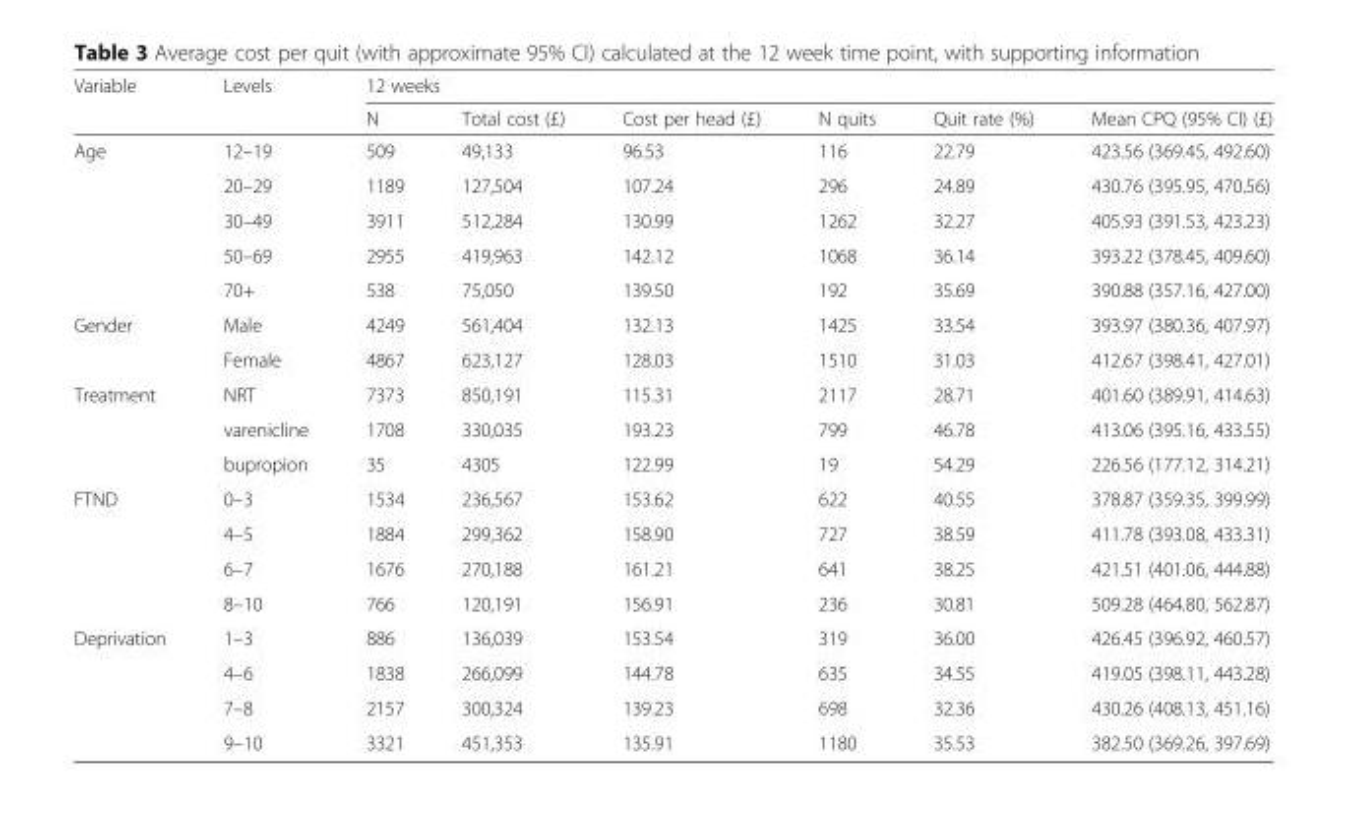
<table><thead><tr><td rowspan="2">Variable</td><td rowspan="2">Levels</td><td colspan="6">12 weeks</td></tr><tr><td>N</td><td>Total cost (£)</td><td>Cost per head (£)</td><td>N quits</td><td>Quit rate (%)</td><td>Mean CPQ (95% CI) (£)</td></tr></thead><tbody><tr><td rowspan="5">Age</td><td>12–19</td><td>509</td><td>49,133</td><td>96.53</td><td>116</td><td>22.79</td><td>423.56 (369.45, 492.60)</td></tr><tr><td>20–29</td><td>1189</td><td>127,504</td><td>107.24</td><td>296</td><td>24.89</td><td>430.76 (395.95, 470.56)</td></tr><tr><td>30–49</td><td>3911</td><td>512,284</td><td>130.99</td><td>1262</td><td>32.27</td><td>405.93 (391.53, 423.23)</td></tr><tr><td>50–69</td><td>2955</td><td>419,963</td><td>142.12</td><td>1068</td><td>36.14</td><td>393.22 (378.45, 409.60)</td></tr><tr><td>70+</td><td>538</td><td>75,050</td><td>139.50</td><td>192</td><td>35.69</td><td>390.88 (357.16, 427.00)</td></tr><tr><td rowspan="2">Gender</td><td>Male</td><td>4249</td><td>561,404</td><td>132.13</td><td>1425</td><td>33.54</td><td>393.97 (380.36, 407.97)</td></tr><tr><td>Female</td><td>4867</td><td>623,127</td><td>128.03</td><td>1510</td><td>31.03</td><td>412.67 (398.41, 427.01)</td></tr><tr><td rowspan="3">Treatment</td><td>NRT</td><td>7373</td><td>850,191</td><td>115.31</td><td>2117</td><td>28.71</td><td>401.60 (389.91, 414.63)</td></tr><tr><td>varenicline</td><td>1708</td><td>330,035</td><td>193.23</td><td>799</td><td>46.78</td><td>413.06 (395.16, 433.55)</td></tr><tr><td>bupropion</td><td>35</td><td>4305</td><td>122.99</td><td>19</td><td>54.29</td><td>226.56 (177.12, 314.21)</td></tr><tr><td rowspan="4">FTND</td><td>0–3</td><td>1534</td><td>236,567</td><td>153.62</td><td>622</td><td>40.55</td><td>378.87 (359.35, 399.99)</td></tr><tr><td>4–5</td><td>1884</td><td>299,362</td><td>158.90</td><td>727</td><td>38.59</td><td>411.78 (393.08, 433.31)</td></tr><tr><td>6–7</td><td>1676</td><td>270,188</td><td>161.21</td><td>641</td><td>38.25</td><td>421.51 (401.06, 444.88)</td></tr><tr><td>8–10</td><td>766</td><td>120,191</td><td>156.91</td><td>236</td><td>30.81</td><td>509.28 (464.80, 562.87)</td></tr><tr><td rowspan="4">Deprivation</td><td>1–3</td><td>886</td><td>136,039</td><td>153.54</td><td>319</td><td>36.00</td><td>426.45 (396.92, 460.57)</td></tr><tr><td>4–6</td><td>1838</td><td>266,099</td><td>144.78</td><td>635</td><td>34.55</td><td>419.05 (398.11, 443.28)</td></tr><tr><td>7–8</td><td>2157</td><td>300,324</td><td>139.23</td><td>698</td><td>32.36</td><td>430.26 (408.13, 451.16)</td></tr><tr><td>9–10</td><td>3321</td><td>451,353</td><td>135.91</td><td>1180</td><td>35.53</td><td>382.50 (369.26, 397.69)</td></tr></tbody></table>